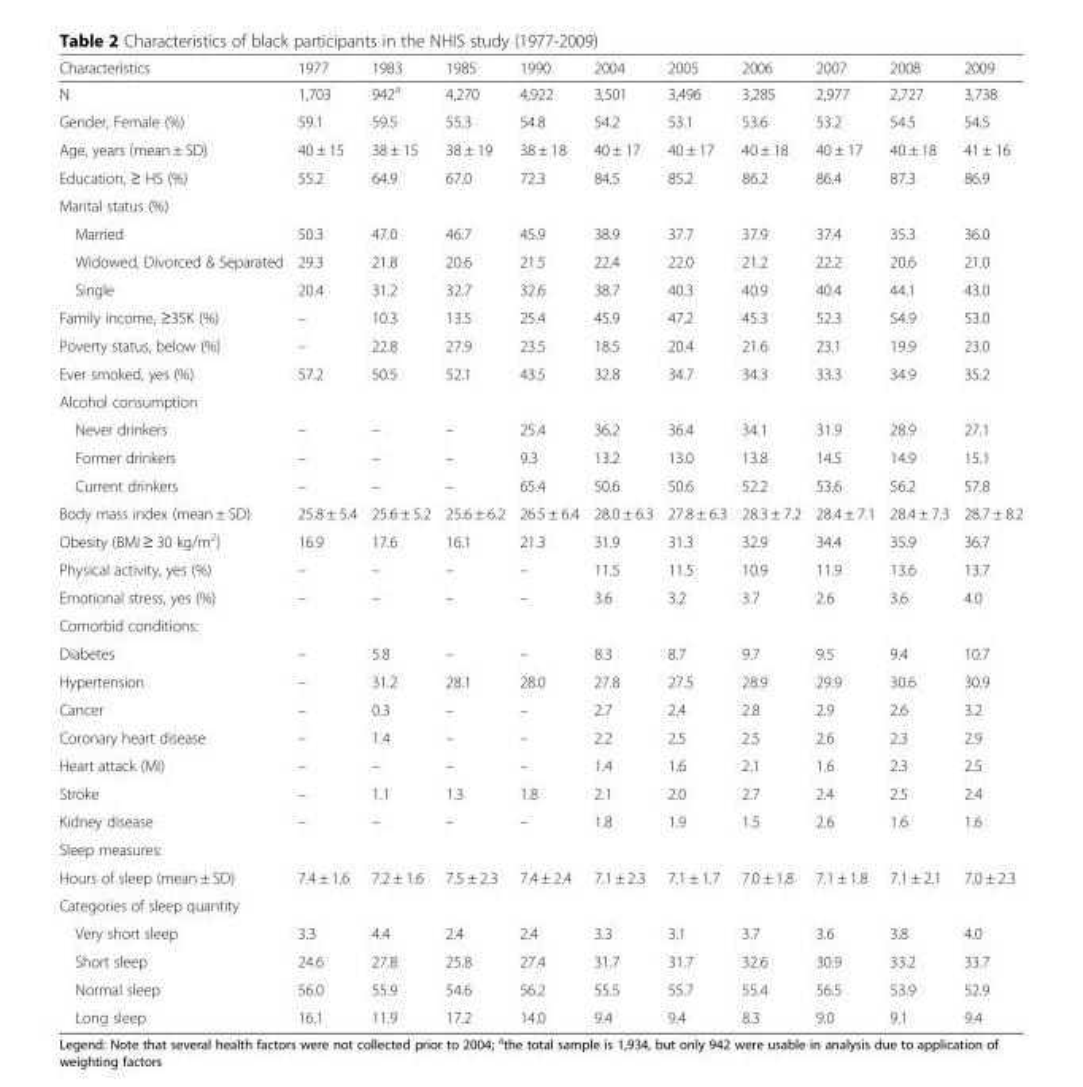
<table><thead><tr><td>Characteristics</td><td>1977</td><td>1983</td><td>1985</td><td>1990</td><td>2004</td><td>2005</td><td>2006</td><td>2007</td><td>2008</td><td>2009</td></tr></thead><tbody><tr><td>N</td><td>1,703</td><td>942<sup>a</sup></td><td>4,270</td><td>4,922</td><td>3,501</td><td>3,496</td><td>3,285</td><td>2,977</td><td>2,727</td><td>3,738</td></tr><tr><td>Gender, Female (%)</td><td>59.1</td><td>59.5</td><td>55.3</td><td>54.8</td><td>54.2</td><td>53.1</td><td>53.6</td><td>53.2</td><td>54.5</td><td>54.5</td></tr><tr><td>Age, years (mean ± SD)</td><td>40 ± 15</td><td>38 ± 15</td><td>38 ± 19</td><td>38 ± 18</td><td>40 ± 17</td><td>40 ± 17</td><td>40 ± 18</td><td>40 ± 17</td><td>40 ± 18</td><td>41 ± 16</td></tr><tr><td>Education, ≥ HS (%)</td><td>55.2</td><td>64.9</td><td>67.0</td><td>72.3</td><td>84.5</td><td>85.2</td><td>86.2</td><td>86.4</td><td>87.3</td><td>86.9</td></tr><tr><td colspan="11">Marital status (%)</td></tr><tr><td>Married</td><td>50.3</td><td>47.0</td><td>46.7</td><td>45.9</td><td>38.9</td><td>37.7</td><td>37.9</td><td>37.4</td><td>35.3</td><td>36.0</td></tr><tr><td>Widowed, Divorced &amp; Separated</td><td>29.3</td><td>21.8</td><td>20.6</td><td>21.5</td><td>22.4</td><td>22.0</td><td>21.2</td><td>22.2</td><td>20.6</td><td>21.0</td></tr><tr><td>Single</td><td>20.4</td><td>31.2</td><td>32.7</td><td>32.6</td><td>38.7</td><td>40.3</td><td>40.9</td><td>40.4</td><td>44.1</td><td>43.0</td></tr><tr><td>Family income, ≥35K (%)</td><td>–</td><td>10.3</td><td>13.5</td><td>25.4</td><td>45.9</td><td>47.2</td><td>45.3</td><td>52.3</td><td>54.9</td><td>53.0</td></tr><tr><td>Poverty status, below (%)</td><td>–</td><td>22.8</td><td>27.9</td><td>23.5</td><td>18.5</td><td>20.4</td><td>21.6</td><td>23.1</td><td>19.9</td><td>23.0</td></tr><tr><td>Ever smoked, yes (%)</td><td>57.2</td><td>50.5</td><td>52.1</td><td>43.5</td><td>32.8</td><td>34.7</td><td>34.3</td><td>33.3</td><td>34.9</td><td>35.2</td></tr><tr><td colspan="11">Alcohol consumption</td></tr><tr><td>Never drinkers</td><td>–</td><td>–</td><td>–</td><td>25.4</td><td>36.2</td><td>36.4</td><td>34.1</td><td>31.9</td><td>28.9</td><td>27.1</td></tr><tr><td>Former drinkers</td><td>–</td><td>–</td><td>–</td><td>9.3</td><td>13.2</td><td>13.0</td><td>13.8</td><td>14.5</td><td>14.9</td><td>15.1</td></tr><tr><td>Current drinkers</td><td>–</td><td>–</td><td>–</td><td>65.4</td><td>50.6</td><td>50.6</td><td>52.2</td><td>53.6</td><td>56.2</td><td>57.8</td></tr><tr><td>Body mass index (mean ± SD)</td><td>25.8 ± 5.4</td><td>25.6 ± 5.2</td><td>25.6 ± 6.2</td><td>26.5 ± 6.4</td><td>28.0 ± 6.3</td><td>27.8 ± 6.3</td><td>28.3 ± 7.2</td><td>28.4 ± 7.1</td><td>28.4 ± 7.3</td><td>28.7 ± 8.2</td></tr><tr><td>Obesity (BMI ≥ 30 kg/m<sup>2</sup>)</td><td>16.9</td><td>17.6</td><td>16.1</td><td>21.3</td><td>31.9</td><td>31.3</td><td>32.9</td><td>34.4</td><td>35.9</td><td>36.7</td></tr><tr><td>Physical activity, yes (%)</td><td>–</td><td>–</td><td>–</td><td>–</td><td>11.5</td><td>11.5</td><td>10.9</td><td>11.9</td><td>13.6</td><td>13.7</td></tr><tr><td>Emotional stress, yes (%)</td><td>–</td><td>–</td><td>–</td><td>–</td><td>3.6</td><td>3.2</td><td>3.7</td><td>2.6</td><td>3.6</td><td>4.0</td></tr><tr><td colspan="11">Comorbid conditions:</td></tr><tr><td>Diabetes</td><td>–</td><td>5.8</td><td>–</td><td>–</td><td>8.3</td><td>8.7</td><td>9.7</td><td>9.5</td><td>9.4</td><td>10.7</td></tr><tr><td>Hypertension</td><td>–</td><td>31.2</td><td>28.1</td><td>28.0</td><td>27.8</td><td>27.5</td><td>28.9</td><td>29.9</td><td>30.6</td><td>30.9</td></tr><tr><td>Cancer</td><td>–</td><td>0.3</td><td>–</td><td>–</td><td>2.7</td><td>2.4</td><td>2.8</td><td>2.9</td><td>2.6</td><td>3.2</td></tr><tr><td>Coronary heart disease</td><td>–</td><td>1.4</td><td>–</td><td>–</td><td>2.2</td><td>2.5</td><td>2.5</td><td>2.6</td><td>2.3</td><td>2.9</td></tr><tr><td>Heart attack (MI)</td><td>–</td><td>–</td><td>–</td><td>–</td><td>1.4</td><td>1.6</td><td>2.1</td><td>1.6</td><td>2.3</td><td>2.5</td></tr><tr><td>Stroke</td><td>–</td><td>1.1</td><td>1.3</td><td>1.8</td><td>2.1</td><td>2.0</td><td>2.7</td><td>2.4</td><td>2.5</td><td>2.4</td></tr><tr><td>Kidney disease</td><td>–</td><td>–</td><td>–</td><td>–</td><td>1.8</td><td>1.9</td><td>1.5</td><td>2.6</td><td>1.6</td><td>1.6</td></tr><tr><td colspan="11">Sleep measures:</td></tr><tr><td>Hours of sleep (mean ± SD)</td><td>7.4 ± 1.6</td><td>7.2 ± 1.6</td><td>7.5 ± 2.3</td><td>7.4 ± 2.4</td><td>7.1 ± 2.3</td><td>7.1 ± 1.7</td><td>7.0 ± 1.8</td><td>7.1 ± 1.8</td><td>7.1 ± 2.1</td><td>7.0 ± 2.3</td></tr><tr><td colspan="11">Categories of sleep quantity</td></tr><tr><td>Very short sleep</td><td>3.3</td><td>4.4</td><td>2.4</td><td>2.4</td><td>3.3</td><td>3.1</td><td>3.7</td><td>3.6</td><td>3.8</td><td>4.0</td></tr><tr><td>Short sleep</td><td>24.6</td><td>27.8</td><td>25.8</td><td>27.4</td><td>31.7</td><td>31.7</td><td>32.6</td><td>30.9</td><td>33.2</td><td>33.7</td></tr><tr><td>Normal sleep</td><td>56.0</td><td>55.9</td><td>54.6</td><td>56.2</td><td>55.5</td><td>55.7</td><td>55.4</td><td>56.5</td><td>53.9</td><td>52.9</td></tr><tr><td>Long sleep</td><td>16.1</td><td>11.9</td><td>17.2</td><td>14.0</td><td>9.4</td><td>9.4</td><td>8.3</td><td>9.0</td><td>9.1</td><td>9.4</td></tr></tbody></table>